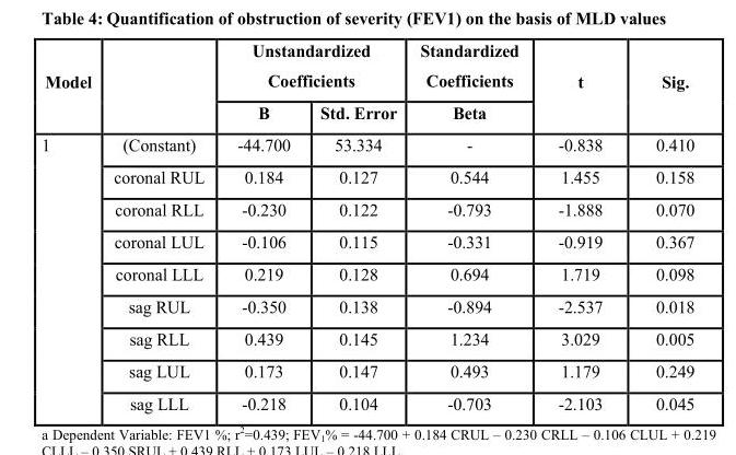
<table><thead><tr><td rowspan="2">Model</td><td rowspan="2"></td><td colspan="2">Unstandardized Coefficients</td><td rowspan="2">Standardized Coefficients Beta</td><td rowspan="2">t</td><td rowspan="2">Sig.</td></tr><tr><td>B</td><td>Std. Error</td></tr></thead><tbody><tr><td rowspan="9">1</td><td>(Constant)</td><td>-44.700</td><td>53.334</td><td>-</td><td>-0.838</td><td>0.410</td></tr><tr><td>coronal RUL</td><td>0.184</td><td>0.127</td><td>0.544</td><td>1.455</td><td>0.158</td></tr><tr><td>coronal RLL</td><td>-0.230</td><td>0.122</td><td>-0.793</td><td>-1.888</td><td>0.070</td></tr><tr><td>coronal LUL</td><td>-0.106</td><td>0.115</td><td>-0.331</td><td>-0.919</td><td>0.367</td></tr><tr><td>coronal LLL</td><td>0.219</td><td>0.128</td><td>0.694</td><td>1.719</td><td>0.098</td></tr><tr><td>sag RUL</td><td>-0.350</td><td>0.138</td><td>-0.894</td><td>-2.537</td><td>0.018</td></tr><tr><td>sag RLL</td><td>0.439</td><td>0.145</td><td>1.234</td><td>3.029</td><td>0.005</td></tr><tr><td>sag LUL</td><td>0.173</td><td>0.147</td><td>0.493</td><td>1.179</td><td>0.249</td></tr><tr><td>sag LLL</td><td>-0.218</td><td>0.104</td><td>-0.703</td><td>-2.103</td><td>0.045</td></tr></tbody></table>